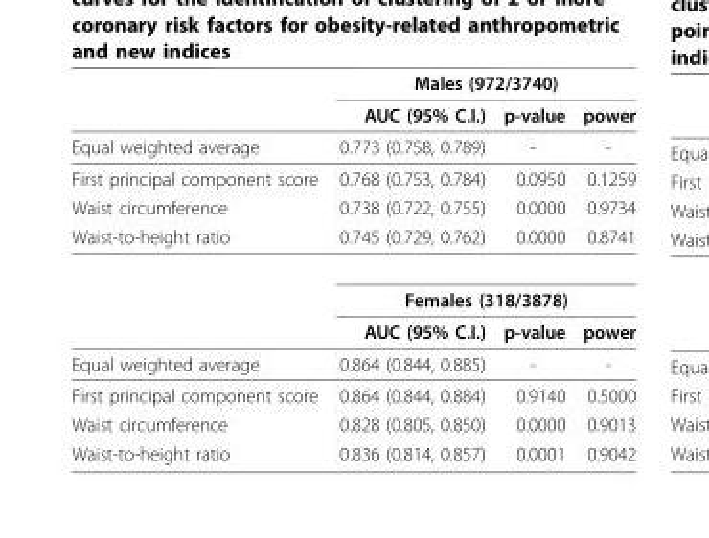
<table><thead><tr><td rowspan="2"></td><td colspan="3">Males (972/3740)</td></tr><tr><td>AUC (95% C.I.)</td><td>p-value</td><td>power</td></tr></thead><tbody><tr><td>Equal weighted average</td><td>0.773 (0.758, 0.789)</td><td>-</td><td>-</td></tr><tr><td>First principal component score</td><td>0.768 (0.753, 0.784)</td><td>0.0950</td><td>0.1259</td></tr><tr><td>Waist circumference</td><td>0.738 (0.722, 0.755)</td><td>0.0000</td><td>0.9734</td></tr><tr><td rowspan="3">Waist-to-height ratio</td><td>0.745 (0.729, 0.762)</td><td>0.0000</td><td>0.8741</td></tr><tr><td colspan="3">Females (318/3878)</td></tr><tr><td>AUC (95% C.I.)</td><td>p-value</td><td>power</td></tr><tr><td>Equal weighted average</td><td>0.864 (0.844, 0.885)</td><td>-</td><td>-</td></tr><tr><td>First principal component score</td><td>0.864 (0.844, 0.884)</td><td>0.9140</td><td>0.5000</td></tr><tr><td>Waist circumference</td><td>0.828 (0.805, 0.850)</td><td>0.0000</td><td>0.9013</td></tr><tr><td>Waist-to-height ratio</td><td>0.836 (0.814, 0.857)</td><td>0.0001</td><td>0.9042</td></tr></tbody></table>